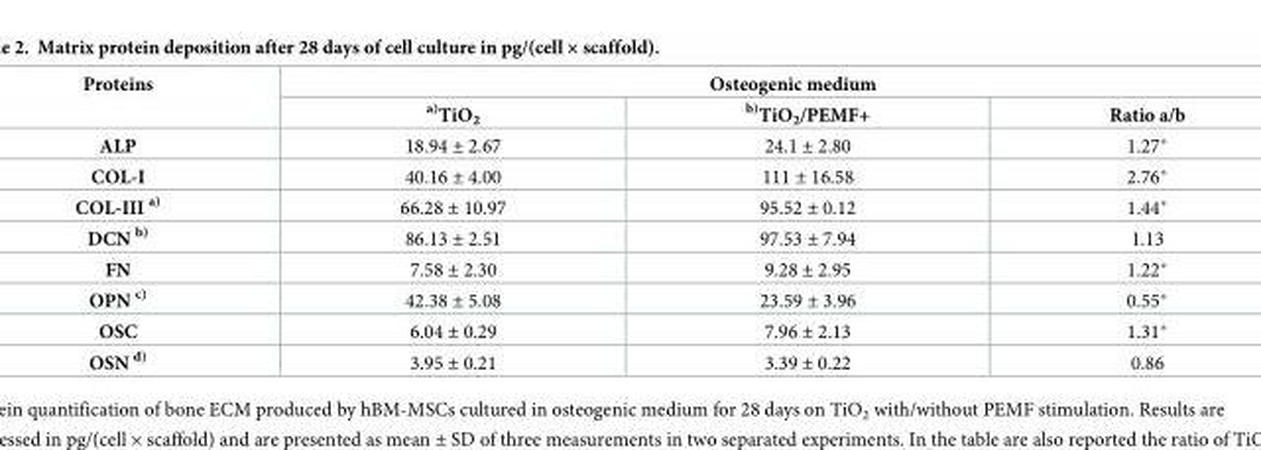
<table><thead><tr><td rowspan="2">Proteins</td><td colspan="3">Osteogenic medium</td></tr><tr><td><sup>a)</sup>TiO<sub>2</sub></td><td><sup>b)</sup>TiO<sub>2</sub>/PEMF+</td><td>Ratio a/b</td></tr></thead><tbody><tr><td>ALP</td><td>18.94 ± 2.67</td><td>24.1 ± 2.80</td><td>1.27*</td></tr><tr><td>COL-I</td><td>40.16 ± 4.00</td><td>111 ± 16.58</td><td>2.76*</td></tr><tr><td>COL-III <sup>a)</sup></td><td>66.28 ± 10.97</td><td>95.52 ± 0.12</td><td>1.44*</td></tr><tr><td>DCN <sup>b)</sup></td><td>86.13 ± 2.51</td><td>97.53 ± 7.94</td><td>1.13</td></tr><tr><td>FN</td><td>7.58 ± 2.30</td><td>9.28 ± 2.95</td><td>1.22*</td></tr><tr><td>OPN <sup>c)</sup></td><td>42.38 ± 5.08</td><td>23.59 ± 3.96</td><td>0.55*</td></tr><tr><td>OSC</td><td>6.04 ± 0.29</td><td>7.96 ± 2.13</td><td>1.31*</td></tr><tr><td>OSN <sup>d)</sup></td><td>3.95 ± 0.21</td><td>3.39 ± 0.22</td><td>0.86</td></tr></tbody></table>